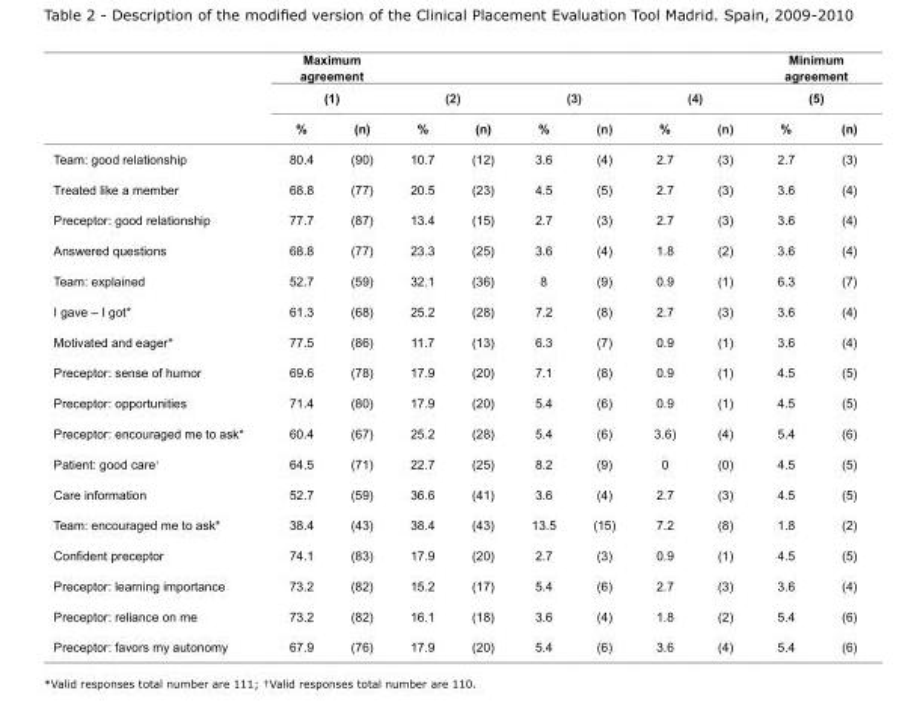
<table><thead><tr><td rowspan="3"></td><td rowspan="2" colspan="2">Maximum agreement (1)</td><td></td><td></td><td></td><td></td><td></td><td></td><td rowspan="2" colspan="2">Minimum agreement (5)</td></tr><tr><td colspan="2">(2)</td><td colspan="2">(3)</td><td colspan="2">(4)</td></tr><tr><td>%</td><td>(n)</td><td>%</td><td>(n)</td><td>%</td><td>(n)</td><td>%</td><td>(n)</td><td>%</td><td>(n)</td></tr></thead><tbody><tr><td>Team: good relationship</td><td>80.4</td><td>(90)</td><td>10.7</td><td>(12)</td><td>3.6</td><td>(4)</td><td>2.7</td><td>(3)</td><td>2.7</td><td>(3)</td></tr><tr><td>Treated like a member</td><td>68.8</td><td>(77)</td><td>20.5</td><td>(23)</td><td>4.5</td><td>(5)</td><td>2.7</td><td>(3)</td><td>3.6</td><td>(4)</td></tr><tr><td>Preceptor: good relationship</td><td>77.7</td><td>(87)</td><td>13.4</td><td>(15)</td><td>2.7</td><td>(3)</td><td>2.7</td><td>(3)</td><td>3.6</td><td>(4)</td></tr><tr><td>Answered questions</td><td>68.8</td><td>(77)</td><td>23.3</td><td>(25)</td><td>3.6</td><td>(4)</td><td>1.8</td><td>(2)</td><td>3.6</td><td>(4)</td></tr><tr><td>Team: explained</td><td>52.7</td><td>(59)</td><td>32.1</td><td>(36)</td><td>8</td><td>(9)</td><td>0.9</td><td>(1)</td><td>6.3</td><td>(7)</td></tr><tr><td>I gave – I got*</td><td>61.3</td><td>(68)</td><td>25.2</td><td>(28)</td><td>7.2</td><td>(8)</td><td>2.7</td><td>(3)</td><td>3.6</td><td>(4)</td></tr><tr><td>Motivated and eager*</td><td>77.5</td><td>(86)</td><td>11.7</td><td>(13)</td><td>6.3</td><td>(7)</td><td>0.9</td><td>(1)</td><td>3.6</td><td>(4)</td></tr><tr><td>Preceptor: sense of humor</td><td>69.6</td><td>(78)</td><td>17.9</td><td>(20)</td><td>7.1</td><td>(8)</td><td>0.9</td><td>(1)</td><td>4.5</td><td>(5)</td></tr><tr><td>Preceptor: opportunities</td><td>71.4</td><td>(80)</td><td>17.9</td><td>(20)</td><td>5.4</td><td>(6)</td><td>0.9</td><td>(1)</td><td>4.5</td><td>(5)</td></tr><tr><td>Preceptor: encouraged me to ask*</td><td>60.4</td><td>(67)</td><td>25.2</td><td>(28)</td><td>5.4</td><td>(6)</td><td>3.6)</td><td>(4)</td><td>5.4</td><td>(6)</td></tr><tr><td>Patient: good care<sup>†</sup></td><td>64.5</td><td>(71)</td><td>22.7</td><td>(25)</td><td>8.2</td><td>(9)</td><td>0</td><td>(0)</td><td>4.5</td><td>(5)</td></tr><tr><td>Care information</td><td>52.7</td><td>(59)</td><td>36.6</td><td>(41)</td><td>3.6</td><td>(4)</td><td>2.7</td><td>(3)</td><td>4.5</td><td>(5)</td></tr><tr><td>Team: encouraged me to ask*</td><td>38.4</td><td>(43)</td><td>38.4</td><td>(43)</td><td>13.5</td><td>(15)</td><td>7.2</td><td>(8)</td><td>1.8</td><td>(2)</td></tr><tr><td>Confident preceptor</td><td>74.1</td><td>(83)</td><td>17.9</td><td>(20)</td><td>2.7</td><td>(3)</td><td>0.9</td><td>(1)</td><td>4.5</td><td>(5)</td></tr><tr><td>Preceptor: learning importance</td><td>73.2</td><td>(82)</td><td>15.2</td><td>(17)</td><td>5.4</td><td>(6)</td><td>2.7</td><td>(3)</td><td>3.6</td><td>(4)</td></tr><tr><td>Preceptor: reliance on me</td><td>73.2</td><td>(82)</td><td>16.1</td><td>(18)</td><td>3.6</td><td>(4)</td><td>1.8</td><td>(2)</td><td>5.4</td><td>(6)</td></tr><tr><td>Preceptor: favors my autonomy</td><td>67.9</td><td>(76)</td><td>17.9</td><td>(20)</td><td>5.4</td><td>(6)</td><td>3.6</td><td>(4)</td><td>5.4</td><td>(6)</td></tr></tbody></table>